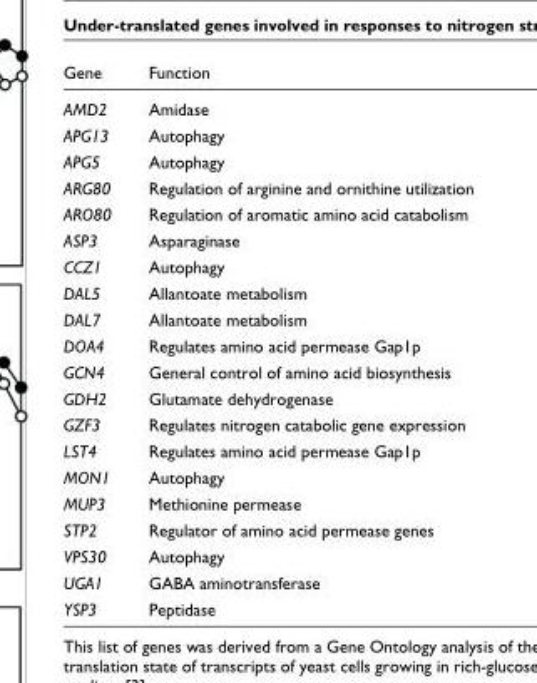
<table><thead><tr><td>Gene</td><td>Function</td></tr></thead><tbody><tr><td>AMD2</td><td>Amidase</td></tr><tr><td>APG13</td><td>Autophagy</td></tr><tr><td>APG5</td><td>Autophagy</td></tr><tr><td>ARG80</td><td>Regulation of arginine and ornithine utilization</td></tr><tr><td>ARO80</td><td>Regulation of aromatic amino acid catabolism</td></tr><tr><td>ASP3</td><td>Asparaginase</td></tr><tr><td>CCZ1</td><td>Autophagy</td></tr><tr><td>DAL5</td><td>Allantoate metabolism</td></tr><tr><td>DAL7</td><td>Allantoate metabolism</td></tr><tr><td>DOA4</td><td>Regulates amino acid permease Gap1p</td></tr><tr><td>GCN4</td><td>General control of amino acid biosynthesis</td></tr><tr><td>GDH2</td><td>Glutamate dehydrogenase</td></tr><tr><td>GZF3</td><td>Regulates nitrogen catabolic gene expression</td></tr><tr><td>LST4</td><td>Regulates amino acid permease Gap1p</td></tr><tr><td>MON1</td><td>Autophagy</td></tr><tr><td>MUP3</td><td>Methionine permease</td></tr><tr><td>STP2</td><td>Regulator of amino acid permease genes</td></tr><tr><td>VPS30</td><td>Autophagy</td></tr><tr><td>UGA1</td><td>GABA aminotransferase</td></tr><tr><td>YSP3</td><td>Peptidase</td></tr></tbody></table>